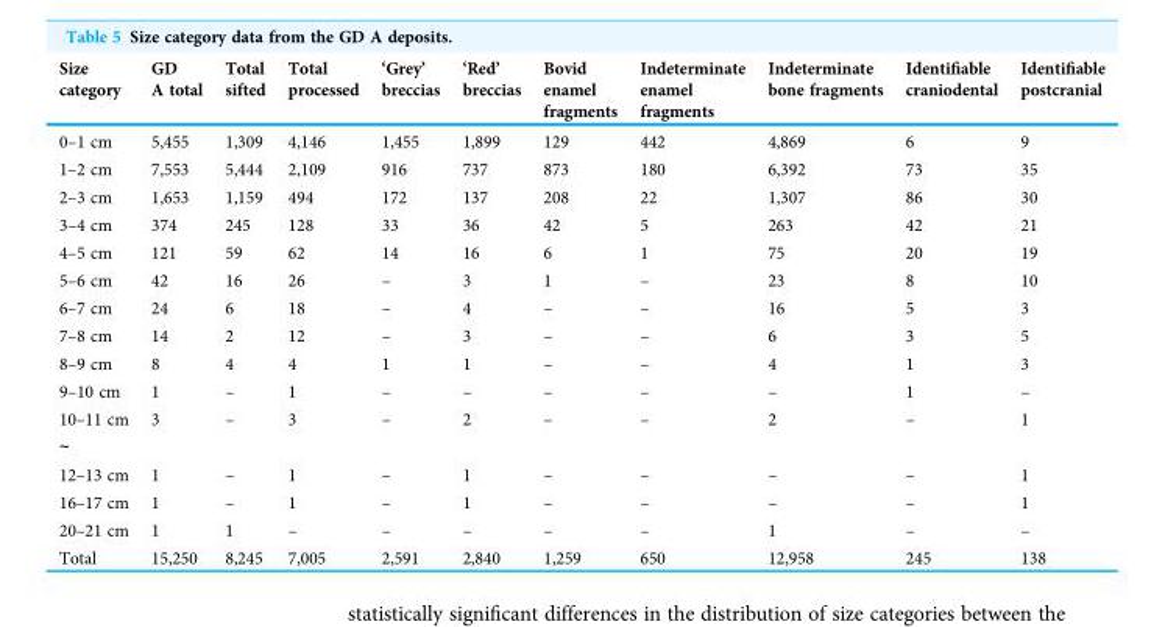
<table><thead><tr><td>Size category</td><td>GD A total</td><td>Total sifted</td><td>Total processed</td><td>‘Grey’ breccias</td><td>‘Red’ breccias</td><td>Bovid enamel fragments</td><td>Indeterminate enamel fragments</td><td>Indeterminate bone fragments</td><td>Identifiable craniodental</td><td>Identifiable postcranial</td></tr></thead><tbody><tr><td>0–1 cm</td><td>5,455</td><td>1,309</td><td>4,146</td><td>1,455</td><td>1,899</td><td>129</td><td>442</td><td>4,869</td><td>6</td><td>9</td></tr><tr><td>1–2 cm</td><td>7,553</td><td>5,444</td><td>2,109</td><td>916</td><td>737</td><td>873</td><td>180</td><td>6,392</td><td>73</td><td>35</td></tr><tr><td>2–3 cm</td><td>1,653</td><td>1,159</td><td>494</td><td>172</td><td>137</td><td>208</td><td>22</td><td>1,307</td><td>86</td><td>30</td></tr><tr><td>3–4 cm</td><td>374</td><td>245</td><td>128</td><td>33</td><td>36</td><td>42</td><td>5</td><td>263</td><td>42</td><td>21</td></tr><tr><td>4–5 cm</td><td>121</td><td>59</td><td>62</td><td>14</td><td>16</td><td>6</td><td>1</td><td>75</td><td>20</td><td>19</td></tr><tr><td>5–6 cm</td><td>42</td><td>16</td><td>26</td><td>–</td><td>3</td><td>1</td><td>–</td><td>23</td><td>8</td><td>10</td></tr><tr><td>6–7 cm</td><td>24</td><td>6</td><td>18</td><td>–</td><td>4</td><td>–</td><td>–</td><td>16</td><td>5</td><td>3</td></tr><tr><td>7–8 cm</td><td>14</td><td>2</td><td>12</td><td>–</td><td>3</td><td>–</td><td>–</td><td>6</td><td>3</td><td>5</td></tr><tr><td>8–9 cm</td><td>8</td><td>4</td><td>4</td><td>1</td><td>1</td><td>–</td><td>–</td><td>4</td><td>1</td><td>3</td></tr><tr><td>9–10 cm</td><td>1</td><td>–</td><td>1</td><td>–</td><td>–</td><td>–</td><td>–</td><td>–</td><td>1</td><td>–</td></tr><tr><td>10–11 cm</td><td>3</td><td>–</td><td>3</td><td>–</td><td>2</td><td>–</td><td>–</td><td>2</td><td>–</td><td>1</td></tr><tr><td colspan="11">∼</td></tr><tr><td>12–13 cm</td><td>1</td><td>–</td><td>1</td><td>–</td><td>1</td><td>–</td><td>–</td><td>–</td><td>–</td><td>1</td></tr><tr><td>16–17 cm</td><td>1</td><td>–</td><td>1</td><td>–</td><td>1</td><td>–</td><td>–</td><td>–</td><td>–</td><td>1</td></tr><tr><td>20–21 cm</td><td>1</td><td>1</td><td>–</td><td>–</td><td>–</td><td>–</td><td>–</td><td>1</td><td>–</td><td>–</td></tr><tr><td>Total</td><td>15,250</td><td>8,245</td><td>7,005</td><td>2,591</td><td>2,840</td><td>1,259</td><td>650</td><td>12,958</td><td>245</td><td>138</td></tr></tbody></table>